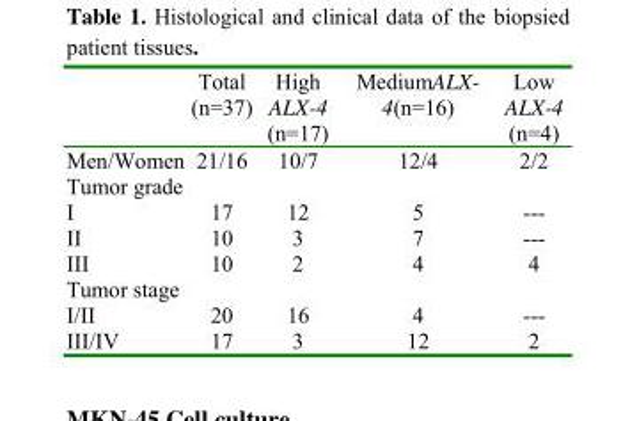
<table><thead><tr><td>Low ALX-4 (n=4)</td><td>MediumALX- 4(n=16)</td><td>High ALX-4 (n=17)</td><td>Total (n=37)</td><td></td></tr></thead><tbody><tr><td>2/2</td><td>12/4</td><td>10/7</td><td>21/16</td><td>Men/Women</td></tr><tr><td>--- --- 4</td><td>5 7 4</td><td>12 3 2</td><td>17 10 10</td><td>Tumor grade I II III</td></tr><tr><td>--- 2</td><td>4 12</td><td>16 3</td><td>20 17</td><td>Tumor stage I/II III/IV</td></tr></tbody></table>